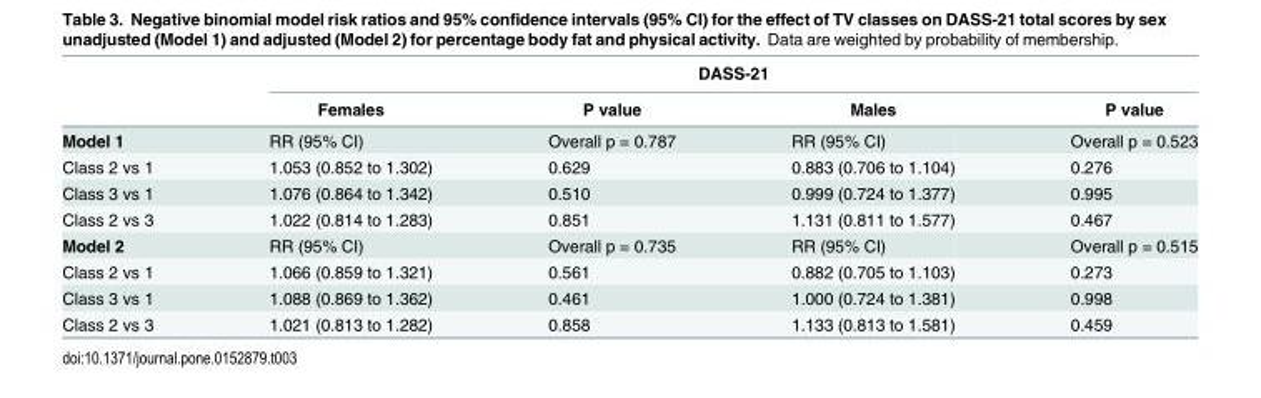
<table><thead><tr><td rowspan="2"></td><td colspan="4">DASS-21</td></tr><tr><td>Females</td><td>P value</td><td>Males</td><td>P value</td></tr></thead><tbody><tr><td>Model 1</td><td>RR (95% CI)</td><td>Overall p = 0.787</td><td>RR (95% CI)</td><td>Overall p = 0.523</td></tr><tr><td>Class 2 vs 1</td><td>1.053 (0.852 to 1.302)</td><td>0.629</td><td>0.883 (0.706 to 1.104)</td><td>0.276</td></tr><tr><td>Class 3 vs 1</td><td>1.076 (0.864 to 1.342)</td><td>0.510</td><td>0.999 (0.724 to 1.377)</td><td>0.995</td></tr><tr><td>Class 2 vs 3</td><td>1.022 (0.814 to 1.283)</td><td>0.851</td><td>1.131 (0.811 to 1.577)</td><td>0.467</td></tr><tr><td>Model 2</td><td>RR (95% CI)</td><td>Overall p = 0.735</td><td>RR (95% CI)</td><td>Overall p = 0.515</td></tr><tr><td>Class 2 vs 1</td><td>1.066 (0.859 to 1.321)</td><td>0.561</td><td>0.882 (0.705 to 1.103)</td><td>0.273</td></tr><tr><td>Class 3 vs 1</td><td>1.088 (0.869 to 1.362)</td><td>0.461</td><td>1.000 (0.724 to 1.381)</td><td>0.998</td></tr><tr><td>Class 2 vs 3</td><td>1.021 (0.813 to 1.282)</td><td>0.858</td><td>1.133 (0.813 to 1.581)</td><td>0.459</td></tr></tbody></table>